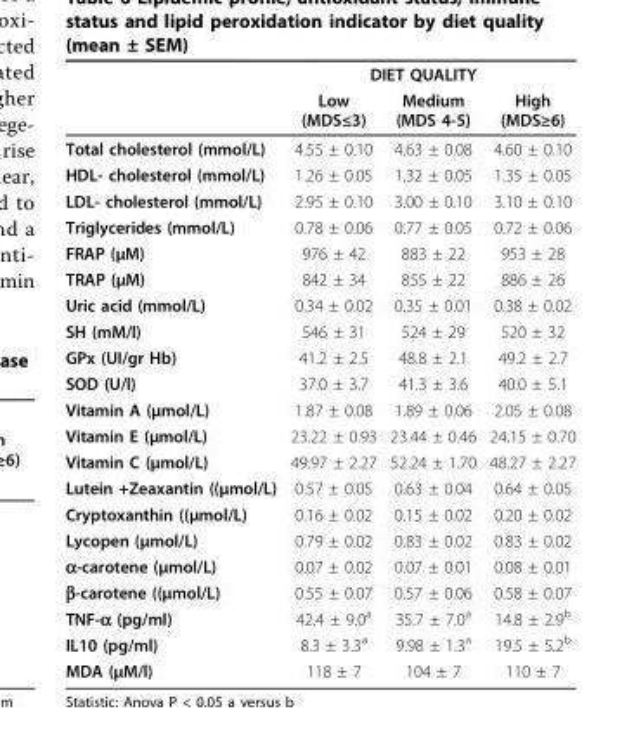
<table><thead><tr><td rowspan="2"></td><td colspan="2">DIET QUALITY</td><td rowspan="2">High (MDS≥6)</td></tr><tr><td>Low (MDS≤3)</td><td>Medium (MDS 4-5)</td></tr></thead><tbody><tr><td>Total cholesterol (mmol/L)</td><td>4.55 ± 0.10</td><td>4.63 ± 0.08</td><td>4.60 ± 0.10</td></tr><tr><td>HDL- cholesterol (mmol/L)</td><td>1.26 ± 0.05</td><td>1.32 ± 0.05</td><td>1.35 ± 0.05</td></tr><tr><td>LDL- cholesterol (mmol/L)</td><td>2.95 ± 0.10</td><td>3.00 ± 0.10</td><td>3.10 ± 0.10</td></tr><tr><td>Triglycerides (mmol/L)</td><td>0.78 ± 0.06</td><td>0.77 ± 0.05</td><td>0.72 ± 0.06</td></tr><tr><td>FRAP (μM)</td><td>976 ± 42</td><td>883 ± 22</td><td>953 ± 28</td></tr><tr><td>TRAP (μM)</td><td>842 ± 34</td><td>855 ± 22</td><td>886 ± 26</td></tr><tr><td>Uric acid (mmol/L)</td><td>0.34 ± 0.02</td><td>0.35 ± 0.01</td><td>0.38 ± 0.02</td></tr><tr><td>SH (mM/l)</td><td>546 ± 31</td><td>524 ± 29</td><td>520 ± 32</td></tr><tr><td>GPx (UI/gr Hb)</td><td>41.2 ± 2.5</td><td>48.8 ± 2.1</td><td>49.2 ± 2.7</td></tr><tr><td>SOD (U/l)</td><td>37.0 ± 3.7</td><td>41.3 ± 3.6</td><td>40.0 ± 5.1</td></tr><tr><td>Vitamin A (μmol/L)</td><td>1.87 ± 0.08</td><td>1.89 ± 0.06</td><td>2.05 ± 0.08</td></tr><tr><td>Vitamin E (μmol/L)</td><td>23.22 ± 0.93</td><td>23.44 ± 0.46</td><td>24.15 ± 0.70</td></tr><tr><td>Vitamin C (μmol/L)</td><td>49.97 ± 2.27</td><td>52.24 ± 1.70</td><td>48.27 ± 2.27</td></tr><tr><td>Lutein +Zeaxantin ((μmol/L)</td><td>0.57 ± 0.05</td><td>0.63 ± 0.04</td><td>0.64 ± 0.05</td></tr><tr><td>Cryptoxanthin ((μmol/L)</td><td>0.16 ± 0.02</td><td>0.15 ± 0.02</td><td>0.20 ± 0.02</td></tr><tr><td>Lycopen (μmol/L)</td><td>0.79 ± 0.02</td><td>0.83 ± 0.02</td><td>0.83 ± 0.02</td></tr><tr><td>α-carotene (μmol/L)</td><td>0.07 ± 0.02</td><td>0.07 ± 0.01</td><td>0.08 ± 0.01</td></tr><tr><td>β-carotene ((μmol/L)</td><td>0.55 ± 0.07</td><td>0.57 ± 0.06</td><td>0.58 ± 0.07</td></tr><tr><td>TNF-α (pg/ml)</td><td>42.4 ± 9.0<sup>a</sup></td><td>35.7 ± 7.0<sup>a</sup></td><td>14.8 ± 2.9<sup>b</sup></td></tr><tr><td>IL10 (pg/ml)</td><td>8.3 ± 3.3<sup>a</sup></td><td>9.98 ± 1.3<sup>a</sup></td><td>19.5 ± 5.2<sup>b</sup></td></tr><tr><td>MDA (μM/l)</td><td>118 ± 7</td><td>104 ± 7</td><td>110 ± 7</td></tr></tbody></table>